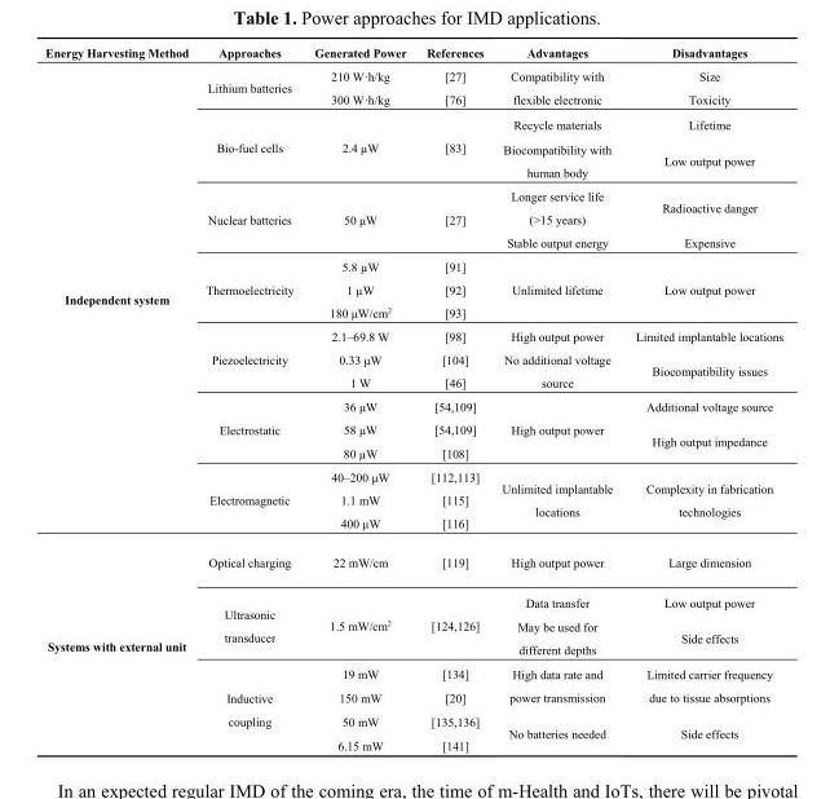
<table><thead><tr><td>Energy Harvesting Method</td><td>Approaches</td><td>Generated Power</td><td>References</td><td>Advantages</td><td>Disadvantages</td></tr></thead><tbody><tr><td rowspan="18">Independent system</td><td rowspan="2">Lithium batteries</td><td>210 W·h/kg</td><td>[27]</td><td rowspan="2">Compatibility with flexible electronic</td><td>Size</td></tr><tr><td>300 W·h/kg</td><td>[76]</td><td>Toxicity</td></tr><tr><td rowspan="2">Bio-fuel cells</td><td rowspan="2">2.4 μW</td><td rowspan="2">[83]</td><td>Recycle materials</td><td>Lifetime</td></tr><tr><td>Biocompatibility with human body</td><td>Low output power</td></tr><tr><td rowspan="2">Nuclear batteries</td><td rowspan="2">50 μW</td><td rowspan="2">[27]</td><td>Longer service life (&gt;15 years)</td><td>Radioactive danger</td></tr><tr><td>Stable output energy</td><td>Expensive</td></tr><tr><td rowspan="3">Thermoelectricity</td><td>5.8 µW</td><td>[91]</td><td rowspan="3">Unlimited lifetime</td><td rowspan="3">Low output power</td></tr><tr><td>1 µW</td><td>[92]</td></tr><tr><td>180 μW/cm<sup>2</sup></td><td>[93]</td></tr><tr><td rowspan="3">Piezoelectricity</td><td>2.1–69.8 W</td><td>[98]</td><td>High output power</td><td>Limited implantable locations</td></tr><tr><td>0.33 μW</td><td>[104]</td><td rowspan="2">No additional voltage source</td><td rowspan="2">Biocompatibility issues</td></tr><tr><td>1 W</td><td>[46]</td></tr><tr><td rowspan="3">Electrostatic</td><td>36 μW</td><td>[54,109]</td><td rowspan="3">High output power</td><td>Additional voltage source</td></tr><tr><td>58 μW</td><td>[54,109]</td><td rowspan="2">High output impedance</td></tr><tr><td>80 µW</td><td>[108]</td></tr><tr><td rowspan="3">Electromagnetic</td><td>40–200 μW</td><td>[112,113]</td><td rowspan="3">Unlimited implantable locations</td><td rowspan="3">Complexity in fabrication technologies</td></tr><tr><td>1.1 mW</td><td>[115]</td></tr><tr><td>400 μW</td><td>[116]</td></tr><tr><td rowspan="7">Systems with external unit</td><td>Optical charging</td><td>22 mW/cm</td><td>[119]</td><td>High output power</td><td>Large dimension</td></tr><tr><td rowspan="2">Ultrasonic transducer</td><td rowspan="2">1.5 mW/cm<sup>2</sup></td><td rowspan="2">[124,126]</td><td>Data transfer</td><td>Low output power</td></tr><tr><td>May be used for different depths</td><td>Side effects</td></tr><tr><td rowspan="4">Inductive coupling</td><td>19 mW</td><td>[134]</td><td rowspan="2">High data rate and power transmission</td><td rowspan="2">Limited carrier frequency due to tissue absorptions</td></tr><tr><td>150 mW</td><td>[20]</td></tr><tr><td>50 mW</td><td>[135,136]</td><td rowspan="2">No batteries needed</td><td rowspan="2">Side effects</td></tr><tr><td>6.15 mW</td><td>[141]</td></tr></tbody></table>